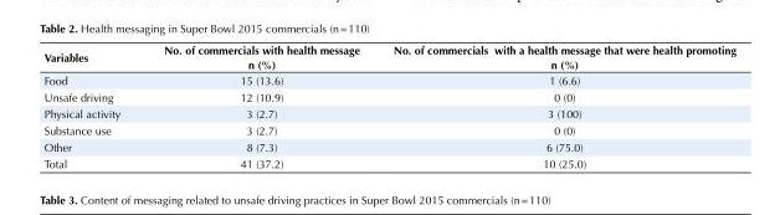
<table><tbody><tr><td>Variables</td><td>No. of commercials with health message n (%)</td><td>No. of commercials with a health message that were health promoting n (%)</td></tr><tr><td>Food</td><td>15 (13.6)</td><td>1 (6.6)</td></tr><tr><td>Unsafe driving</td><td>12 (10.9)</td><td>0 (0)</td></tr><tr><td>Physical activity</td><td>3 (2.7)</td><td>3 (100)</td></tr><tr><td>Substance use</td><td>3 (2.7)</td><td>0 (0)</td></tr><tr><td>Other</td><td>8 (7.3)</td><td>6 (75.0)</td></tr><tr><td>Total</td><td>41 (37.2)</td><td>10 (25.0)</td></tr></tbody></table>